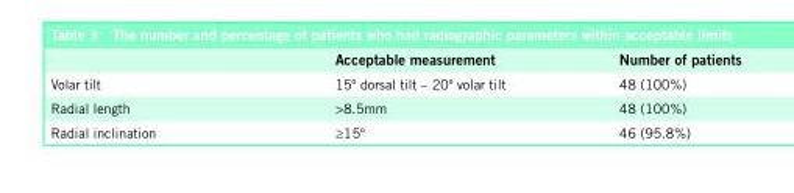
<table><thead><tr><td></td><td>Acceptable measurement</td><td>Number of patients</td></tr></thead><tbody><tr><td>Volar tilt</td><td>15º dorsal tilt – 20º volar tilt</td><td>48 (100%)</td></tr><tr><td>Radial length</td><td>&gt;8.5mm</td><td>48 (100%)</td></tr><tr><td>Radial inclination</td><td>≥15º</td><td>46 (95.8%)</td></tr></tbody></table>